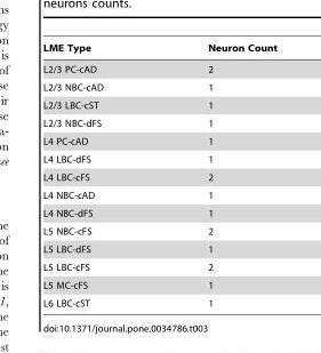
<table><thead><tr><td>LME Type</td><td>Neuron Count</td></tr></thead><tbody><tr><td>L2/3 PC-cAD</td><td>2</td></tr><tr><td>L2/3 NBC-cAD</td><td>1</td></tr><tr><td>L2/3 LBC-cST</td><td>1</td></tr><tr><td>L2/3 NBC-dFS</td><td>1</td></tr><tr><td>L4 PC-cAD</td><td>1</td></tr><tr><td>L4 LBC-dFS</td><td>1</td></tr><tr><td>L4 LBC-cFS</td><td>2</td></tr><tr><td>L4 NBC-cAD</td><td>1</td></tr><tr><td>L4 NBC-dFS</td><td>1</td></tr><tr><td>L5 NBC-cFS</td><td>2</td></tr><tr><td>L5 LBC-dFS</td><td>1</td></tr><tr><td>L5 LBC-cFS</td><td>2</td></tr><tr><td>L5 MC-cFS</td><td>1</td></tr><tr><td>L6 LBC-cST</td><td>1</td></tr></tbody></table>